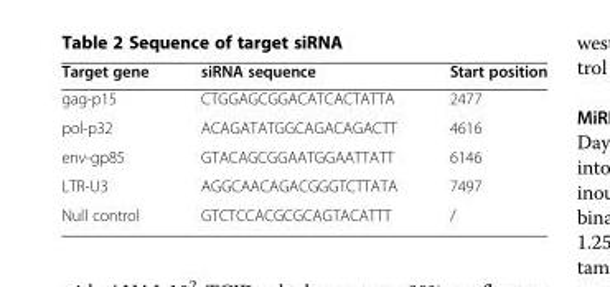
<table><thead><tr><td>Target gene</td><td>siRNA sequence</td><td>Start position</td></tr></thead><tbody><tr><td>gag-p15</td><td>CTGGAGCGGACATCACTATTA</td><td>2477</td></tr><tr><td>pol-p32</td><td>ACAGATATGGCAGACAGACTT</td><td>4616</td></tr><tr><td>env-gp85</td><td>GTACAGCGGAATGGAATTATT</td><td>6146</td></tr><tr><td>LTR-U3</td><td>AGGCAACAGACGGGTCTTATA</td><td>7497</td></tr><tr><td>Null control</td><td>GTCTCCACGCGCAGTACATTT</td><td>/</td></tr></tbody></table>